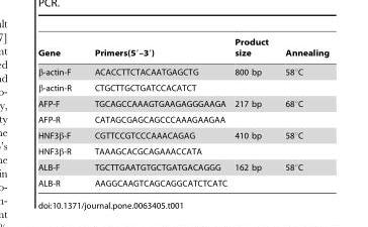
<table><thead><tr><td>Gene</td><td>Primers(5′–3′)</td><td>Product size</td><td>Annealing</td></tr></thead><tbody><tr><td>β-actin-F</td><td>ACACCTTCTACAATGAGCTG</td><td>800 bp</td><td>58°C</td></tr><tr><td>β-actin-R</td><td>CTGCTTGCTGATCCACATCT</td><td></td><td></td></tr><tr><td>AFP-F</td><td>TGCAGCCAAAGTGAAGAGGGAAGA</td><td>217 bp</td><td>68°C</td></tr><tr><td>AFP-R</td><td>CATAGCGAGCAGCCCAAAGAAGAA</td><td></td><td></td></tr><tr><td>HNF3β-F</td><td>CGTTCCGTCCCAAACAGAG</td><td>410 bp</td><td>58°C</td></tr><tr><td>HNF3β-R</td><td>TAAAGCACGCAGAAACCATA</td><td></td><td></td></tr><tr><td>ALB-F</td><td>TGCTTGAATGTGCTGATGACAGGG</td><td>162 bp</td><td>58°C</td></tr><tr><td>ALB-R</td><td>AAGGCAAGTCAGCAGGCATCTCATC</td><td></td><td></td></tr></tbody></table>